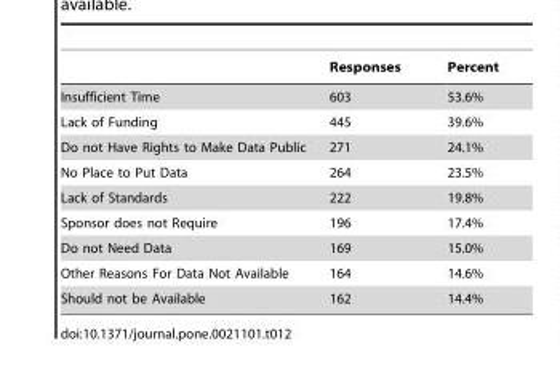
<table><thead><tr><td></td><td>Responses</td><td>Percent</td></tr></thead><tbody><tr><td>Insufficient Time</td><td>603</td><td>53.6%</td></tr><tr><td>Lack of Funding</td><td>445</td><td>39.6%</td></tr><tr><td>Do not Have Rights to Make Data Public</td><td>271</td><td>24.1%</td></tr><tr><td>No Place to Put Data</td><td>264</td><td>23.5%</td></tr><tr><td>Lack of Standards</td><td>222</td><td>19.8%</td></tr><tr><td>Sponsor does not Require</td><td>196</td><td>17.4%</td></tr><tr><td>Do not Need Data</td><td>169</td><td>15.0%</td></tr><tr><td>Other Reasons For Data Not Available</td><td>164</td><td>14.6%</td></tr><tr><td>Should not be Available</td><td>162</td><td>14.4%</td></tr></tbody></table>